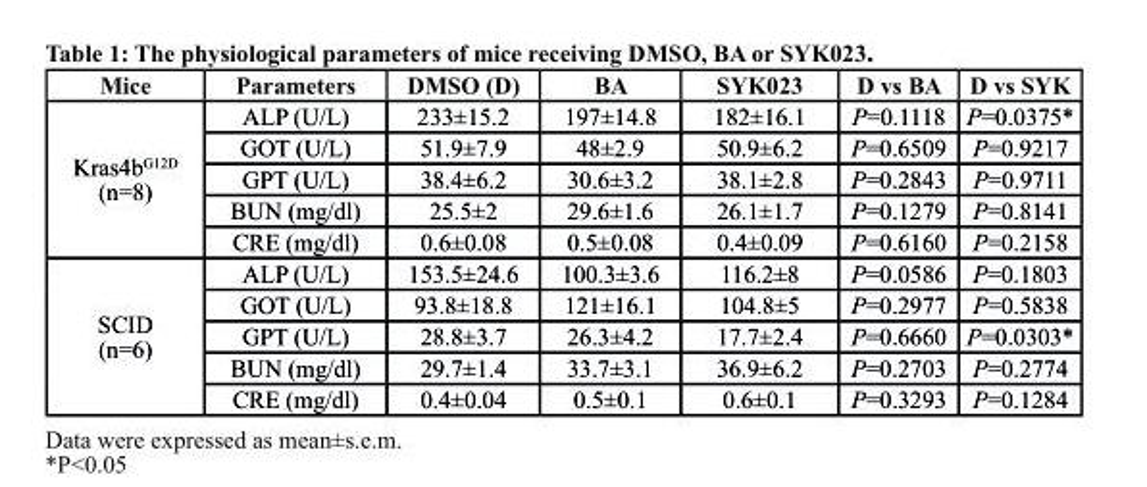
<table><thead><tr><td>Mice</td><td>Parameters</td><td>dMso (d)</td><td>bA</td><td>sYK023</td><td>d vs bA</td><td>d vs sYK</td></tr></thead><tbody><tr><td rowspan="5">Kras4b<sup>G12D</sup> (n=8)</td><td>ALP (U/L)</td><td>233±15.2</td><td>197±14.8</td><td>182±16.1</td><td>P=0.1118</td><td>P=0.0375*</td></tr><tr><td>GOT (U/L)</td><td>51.9±7.9</td><td>48±2.9</td><td>50.9±6.2</td><td>P=0.6509</td><td>P=0.9217</td></tr><tr><td>GPT (U/L)</td><td>38.4±6.2</td><td>30.6±3.2</td><td>38.1±2.8</td><td>P=0.2843</td><td>P=0.9711</td></tr><tr><td>BUN (mg/dl)</td><td>25.5±2</td><td>29.6±1.6</td><td>26.1±1.7</td><td>P=0.1279</td><td>P=0.8141</td></tr><tr><td>CRE (mg/dl)</td><td>0.6±0.08</td><td>0.5±0.08</td><td>0.4±0.09</td><td>P=0.6160</td><td>P=0.2158</td></tr><tr><td rowspan="5">SCID (n=6)</td><td>ALP (U/L)</td><td>153.5±24.6</td><td>100.3±3.6</td><td>116.2±8</td><td>P=0.0586</td><td>P=0.1803</td></tr><tr><td>GOT (U/L)</td><td>93.8±18.8</td><td>121±16.1</td><td>104.8±5</td><td>P=0.2977</td><td>P=0.5838</td></tr><tr><td>GPT (U/L)</td><td>28.8±3.7</td><td>26.3±4.2</td><td>17.7±2.4</td><td>P=0.6660</td><td>P=0.0303*</td></tr><tr><td>BUN (mg/dl)</td><td>29.7±1.4</td><td>33.7±3.1</td><td>36.9±6.2</td><td>P=0.2703</td><td>P=0.2774</td></tr><tr><td>CRE (mg/dl)</td><td>0.4±0.04</td><td>0.5±0.1</td><td>0.6±0.1</td><td>P=0.3293</td><td>P=0.1284</td></tr></tbody></table>